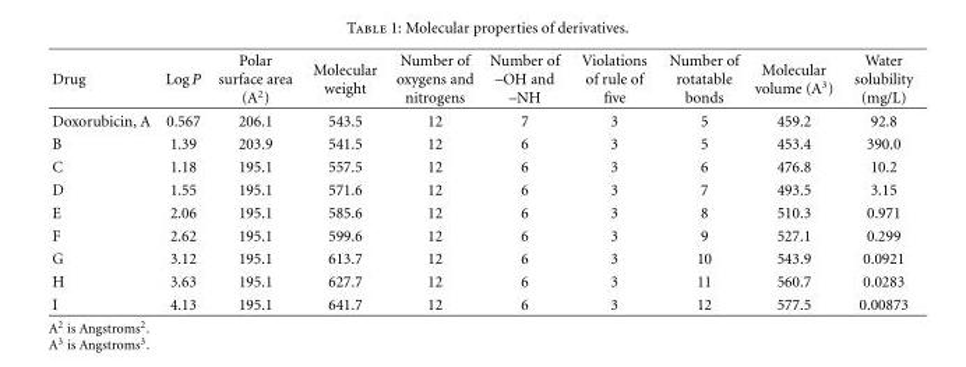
<table><thead><tr><td>Drug</td><td>LogP</td><td>Polar surface area (A<sup>2</sup>)</td><td>Molecular weight</td><td>Number of oxygens and nitrogens</td><td>Number of –OH and –NH</td><td>Violations of rule of five</td><td>Number of rotatable bonds</td><td>Molecular volume (A<sup>3</sup>)</td><td>Water solubility (mg/L)</td></tr></thead><tbody><tr><td>Doxorubicin, A</td><td>0.567</td><td>206.1</td><td>543.5</td><td>12</td><td>7</td><td>3</td><td>5</td><td>459.2</td><td>92.8</td></tr><tr><td>B</td><td>1.39</td><td>203.9</td><td>541.5</td><td>12</td><td>6</td><td>3</td><td>5</td><td>453.4</td><td>390.0</td></tr><tr><td>C</td><td>1.18</td><td>195.1</td><td>557.5</td><td>12</td><td>6</td><td>3</td><td>6</td><td>476.8</td><td>10.2</td></tr><tr><td>D</td><td>1.55</td><td>195.1</td><td>571.6</td><td>12</td><td>6</td><td>3</td><td>7</td><td>493.5</td><td>3.15</td></tr><tr><td>E</td><td>2.06</td><td>195.1</td><td>585.6</td><td>12</td><td>6</td><td>3</td><td>8</td><td>510.3</td><td>0.971</td></tr><tr><td>F</td><td>2.62</td><td>195.1</td><td>599.6</td><td>12</td><td>6</td><td>3</td><td>9</td><td>527.1</td><td>0.299</td></tr><tr><td>G</td><td>3.12</td><td>195.1</td><td>613.7</td><td>12</td><td>6</td><td>3</td><td>10</td><td>543.9</td><td>0.0921</td></tr><tr><td>H</td><td>3.63</td><td>195.1</td><td>627.7</td><td>12</td><td>6</td><td>3</td><td>11</td><td>560.7</td><td>0.0283</td></tr><tr><td>I</td><td>4.13</td><td>195.1</td><td>641.7</td><td>12</td><td>6</td><td>3</td><td>12</td><td>577.5</td><td>0.00873</td></tr></tbody></table>